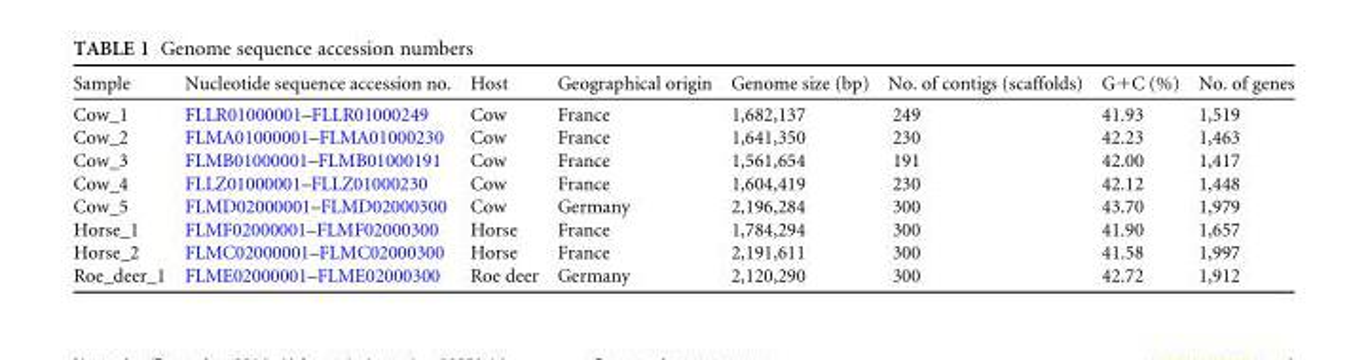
<table><thead><tr><td>Sample</td><td>Nucleotide sequence accession no.</td><td>Host</td><td>Geographical origin</td><td>Genome size (bp)</td><td>No. of contigs (scaffolds)</td><td>G+C (%)</td><td>No. of genes</td></tr></thead><tbody><tr><td>Cow_1</td><td>FLLR01000001–FLLR01000249</td><td>Cow</td><td>France</td><td>1,682,137</td><td>249</td><td>41.93</td><td>1,519</td></tr><tr><td>Cow_2</td><td>FLMA01000001–FLMA01000230</td><td>Cow</td><td>France</td><td>1,641,350</td><td>230</td><td>42.23</td><td>1,463</td></tr><tr><td>Cow_3</td><td>FLMB01000001–FLMB01000191</td><td>Cow</td><td>France</td><td>1,561,654</td><td>191</td><td>42.00</td><td>1,417</td></tr><tr><td>Cow_4</td><td>FLLZ01000001–FLLZ01000230</td><td>Cow</td><td>France</td><td>1,604,419</td><td>230</td><td>42.12</td><td>1,448</td></tr><tr><td>Cow_5</td><td>FLMD02000001–FLMD02000300</td><td>Cow</td><td>Germany</td><td>2,196,284</td><td>300</td><td>43.70</td><td>1,979</td></tr><tr><td>Horse_1</td><td>FLMF02000001–FLMF02000300</td><td>Horse</td><td>France</td><td>1,784,294</td><td>300</td><td>41.90</td><td>1,657</td></tr><tr><td>Horse_2</td><td>FLMC02000001–FLMC02000300</td><td>Horse</td><td>France</td><td>2,191,611</td><td>300</td><td>41.58</td><td>1,997</td></tr><tr><td>Roe_deer_1</td><td>FLME02000001–FLME02000300</td><td>Roe deer</td><td>Germany</td><td>2,120,290</td><td>300</td><td>42.72</td><td>1,912</td></tr></tbody></table>